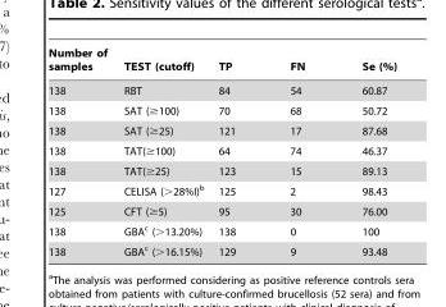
<table><thead><tr><td>Number of samples</td><td>TEST (cutoff)</td><td>TP</td><td>FN</td><td>Se (%)</td></tr></thead><tbody><tr><td>138</td><td>RBT</td><td>84</td><td>54</td><td>60.87</td></tr><tr><td>138</td><td>SAT (≥100)</td><td>70</td><td>68</td><td>50.72</td></tr><tr><td>138</td><td>SAT (≥25)</td><td>121</td><td>17</td><td>87.68</td></tr><tr><td>138</td><td>TAT(≥100)</td><td>64</td><td>74</td><td>46.37</td></tr><tr><td>138</td><td>TAT(≥25)</td><td>123</td><td>15</td><td>89.13</td></tr><tr><td>127</td><td>CELISA (&gt;28%I)<sup>b</sup></td><td>125</td><td>2</td><td>98.43</td></tr><tr><td>125</td><td>CFT (≥5)</td><td>95</td><td>30</td><td>76.00</td></tr><tr><td>138</td><td>GBA<sup>c</sup> (&gt;13.20%)</td><td>138</td><td>0</td><td>100</td></tr><tr><td>138</td><td>GBA<sup>c</sup> (&gt;16.15%)</td><td>129</td><td>9</td><td>93.48</td></tr></tbody></table>